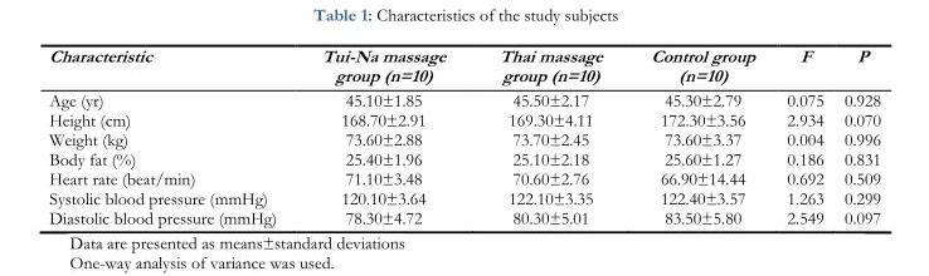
<table><thead><tr><td>Characteristic</td><td>Tui-Na massage group (n=10)</td><td>Thai massage group (n=10)</td><td>Control group (n=10)</td><td>F</td><td>P</td></tr></thead><tbody><tr><td>Age (yr)</td><td>45.10±1.85</td><td>45.50±2.17</td><td>45.30±2.79</td><td>0.075</td><td>0.928</td></tr><tr><td>Height (cm)</td><td>168.70±2.91</td><td>169.30±4.11</td><td>172.30±3.56</td><td>2.934</td><td>0.070</td></tr><tr><td>Weight (kg)</td><td>73.60±2.88</td><td>73.70±2.45</td><td>73.60±3.37</td><td>0.004</td><td>0.996</td></tr><tr><td>Body fat (%)</td><td>25.40±1.96</td><td>25.10±2.18</td><td>25.60±1.27</td><td>0.186</td><td>0.831</td></tr><tr><td>Heart rate (beat/min)</td><td>71.10±3.48</td><td>70.60±2.76</td><td>66.90±14.44</td><td>0.692</td><td>0.509</td></tr><tr><td>Systolic blood pressure (mmHg)</td><td>120.10±3.64</td><td>122.10±3.35</td><td>122.40±3.57</td><td>1.263</td><td>0.299</td></tr><tr><td>Diastolic blood pressure (mmHg)</td><td>78.30±4.72</td><td>80.30±5.01</td><td>83.50±5.80</td><td>2.549</td><td>0.097</td></tr></tbody></table>